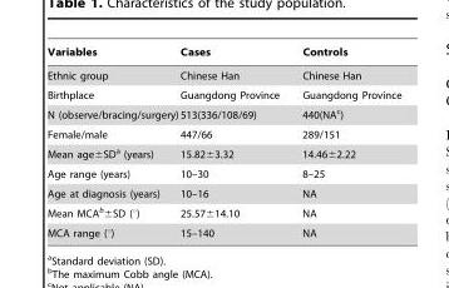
<table><thead><tr><td>Variables</td><td>Cases</td><td>Controls</td></tr></thead><tbody><tr><td>Ethnic group</td><td>Chinese Han</td><td>Chinese Han</td></tr><tr><td>Birthplace</td><td>Guangdong Province</td><td>Guangdong Province</td></tr><tr><td>N (observe/bracing/surgery)</td><td>513(336/108/69)</td><td>440(NA<sup>c</sup>)</td></tr><tr><td>Female/male</td><td>447/66</td><td>289/151</td></tr><tr><td>Mean age±SD<sup>a</sup> (years)</td><td>15.82±3.32</td><td>14.46±2.22</td></tr><tr><td>Age range (years)</td><td>10–30</td><td>8–25</td></tr><tr><td>Age at diagnosis (years)</td><td>10–16</td><td>NA</td></tr><tr><td>Mean MCA<sup>b</sup>±SD (°)</td><td>25.57±14.10</td><td>NA</td></tr><tr><td>MCA range (°)</td><td>15–140</td><td>NA</td></tr></tbody></table>